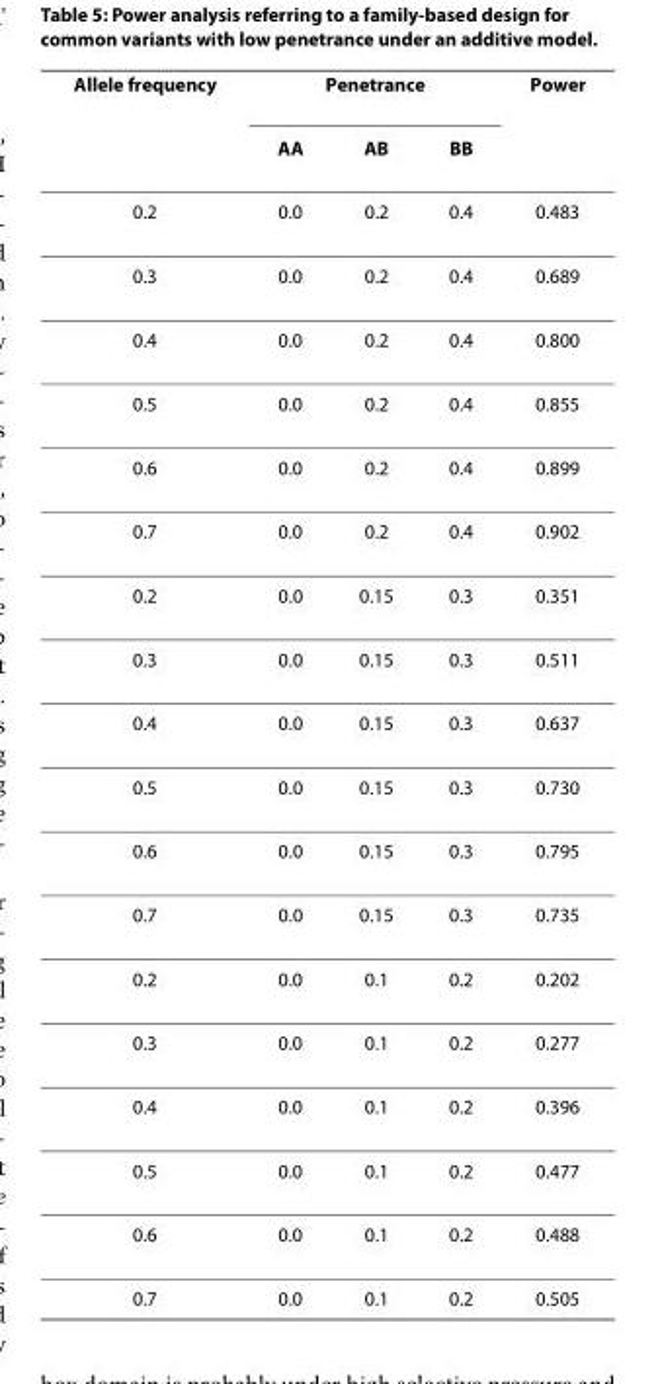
<table><thead><tr><td rowspan="2">Allele frequency</td><td colspan="3">Penetrance</td><td rowspan="2">Power</td></tr><tr><td>AA</td><td>AB</td><td>BB</td></tr></thead><tbody><tr><td>0.2</td><td>0.0</td><td>0.2</td><td>0.4</td><td>0.483</td></tr><tr><td>0.3</td><td>0.0</td><td>0.2</td><td>0.4</td><td>0.689</td></tr><tr><td>0.4</td><td>0.0</td><td>0.2</td><td>0.4</td><td>0.800</td></tr><tr><td>0.5</td><td>0.0</td><td>0.2</td><td>0.4</td><td>0.855</td></tr><tr><td>0.6</td><td>0.0</td><td>0.2</td><td>0.4</td><td>0.899</td></tr><tr><td>0.7</td><td>0.0</td><td>0.2</td><td>0.4</td><td>0.902</td></tr><tr><td>0.2</td><td>0.0</td><td>0.15</td><td>0.3</td><td>0.351</td></tr><tr><td>0.3</td><td>0.0</td><td>0.15</td><td>0.3</td><td>0.511</td></tr><tr><td>0.4</td><td>0.0</td><td>0.15</td><td>0.3</td><td>0.637</td></tr><tr><td>0.5</td><td>0.0</td><td>0.15</td><td>0.3</td><td>0.730</td></tr><tr><td>0.6</td><td>0.0</td><td>0.15</td><td>0.3</td><td>0.795</td></tr><tr><td>0.7</td><td>0.0</td><td>0.15</td><td>0.3</td><td>0.735</td></tr><tr><td>0.2</td><td>0.0</td><td>0.1</td><td>0.2</td><td>0.202</td></tr><tr><td>0.3</td><td>0.0</td><td>0.1</td><td>0.2</td><td>0.277</td></tr><tr><td>0.4</td><td>0.0</td><td>0.1</td><td>0.2</td><td>0.396</td></tr><tr><td>0.5</td><td>0.0</td><td>0.1</td><td>0.2</td><td>0.477</td></tr><tr><td>0.6</td><td>0.0</td><td>0.1</td><td>0.2</td><td>0.488</td></tr><tr><td>0.7</td><td>0.0</td><td>0.1</td><td>0.2</td><td>0.505</td></tr></tbody></table>